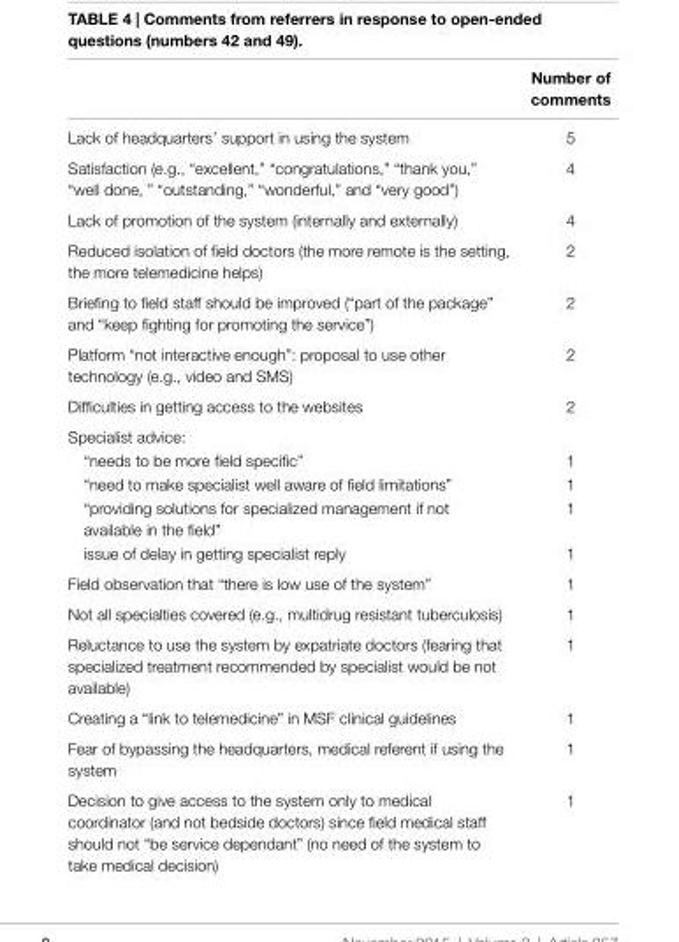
<table><thead><tr><td></td><td>number of comments</td></tr></thead><tbody><tr><td>Lack of headquarters’ support in using the system</td><td>5</td></tr><tr><td>Satisfaction (e.g., “excellent,” “congratulations,” “thank you,” “well done, ” “outstanding,” “wonderful,” and “very good”)</td><td>4</td></tr><tr><td>Lack of promotion of the system (internally and externally)</td><td>4</td></tr><tr><td>Reduced isolation of field doctors (the more remote is the setting, the more telemedicine helps)</td><td>2</td></tr><tr><td>Briefing to field staff should be improved (“part of the package” and “keep fighting for promoting the service”)</td><td>2</td></tr><tr><td>Platform “not interactive enough”: proposal to use other technology (e.g., video and SMS)</td><td>2</td></tr><tr><td>Difficulties in getting access to the websites</td><td>2</td></tr><tr><td colspan="2">Specialist advice:</td></tr><tr><td>“needs to be more field specific”</td><td>1</td></tr><tr><td>“need to make specialist well aware of field limitations”</td><td>1</td></tr><tr><td>“providing solutions for specialized management if not available in the field”</td><td>1</td></tr><tr><td>issue of delay in getting specialist reply</td><td>1</td></tr><tr><td>Field observation that “there is low use of the system”</td><td>1</td></tr><tr><td>Not all specialties covered (e.g., multidrug resistant tuberculosis)</td><td>1</td></tr><tr><td>Reluctance to use the system by expatriate doctors (fearing that specialized treatment recommended by specialist would be not available)</td><td>1</td></tr><tr><td>Creating a “link to telemedicine” in MSF clinical guidelines</td><td>1</td></tr><tr><td>Fear of bypassing the headquarters, medical referent if using the system</td><td>1</td></tr><tr><td>Decision to give access to the system only to medical coordinator (and not bedside doctors) since field medical staff should not “be service dependant” (no need of the system to take medical decision)</td><td>1</td></tr></tbody></table>